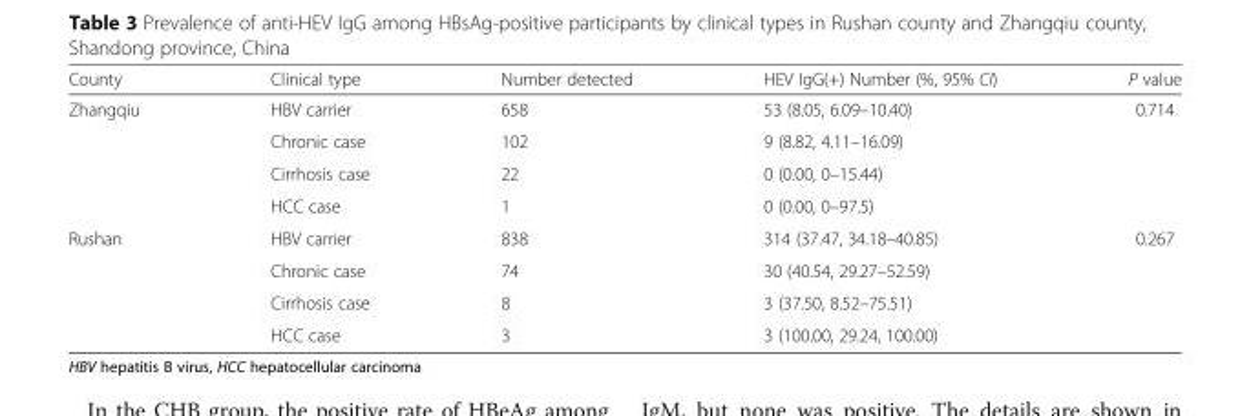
<table><thead><tr><td>County</td><td>Clinical type</td><td>Number detected</td><td>HEV IgG(+) Number (%, 95% CI)</td><td>P value</td></tr></thead><tbody><tr><td rowspan="4">Zhangqiu</td><td>HBV carrier</td><td>658</td><td>53 (8.05, 6.09–10.40)</td><td>0.714</td></tr><tr><td>Chronic case</td><td>102</td><td>9 (8.82, 4.11–16.09)</td><td></td></tr><tr><td>Cirrhosis case</td><td>22</td><td>0 (0.00, 0–15.44)</td><td></td></tr><tr><td>HCC case</td><td>1</td><td>0 (0.00, 0–97.5)</td><td></td></tr><tr><td rowspan="4">Rushan</td><td>HBV carrier</td><td>838</td><td>314 (37.47, 34.18–40.85)</td><td>0.267</td></tr><tr><td>Chronic case</td><td>74</td><td>30 (40.54, 29.27–52.59)</td><td></td></tr><tr><td>Cirrhosis case</td><td>8</td><td>3 (37.50, 8.52–75.51)</td><td></td></tr><tr><td>HCC case</td><td>3</td><td>3 (100.00, 29.24, 100.00)</td><td></td></tr></tbody></table>